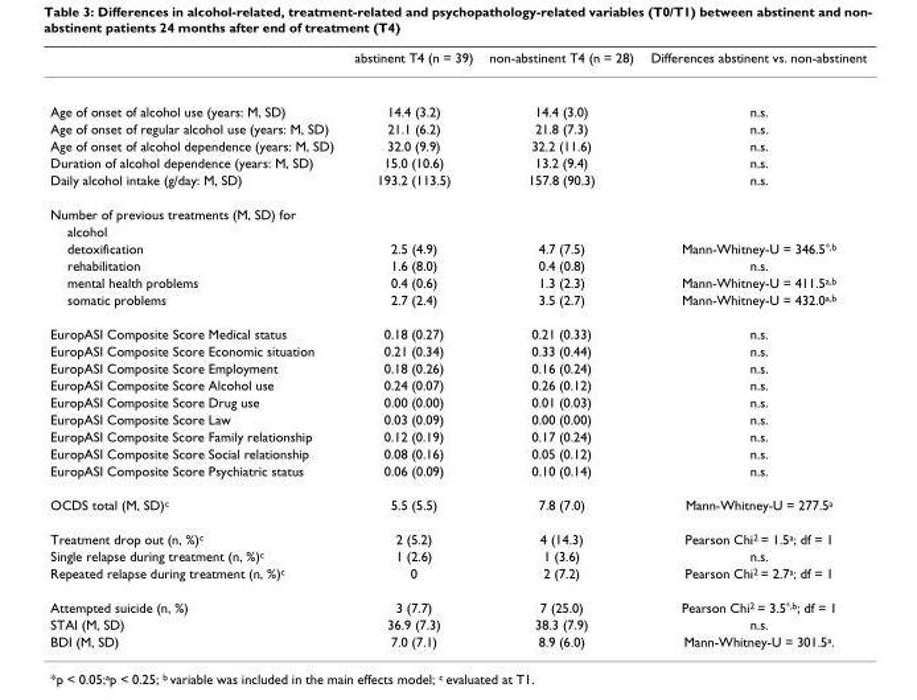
<table><thead><tr><td></td><td>abstinent T4 (n = 39)</td><td>non-abstinent T4 (n = 28)</td><td>Differences abstinent vs. non-abstinent</td></tr></thead><tbody><tr><td>Age of onset of alcohol use (years: M, SD)</td><td>14.4 (3.2)</td><td>14.4 (3.0)</td><td>n.s.</td></tr><tr><td>Age of onset of regular alcohol use (years: M, SD)</td><td>21.1 (6.2)</td><td>21.8 (7.3)</td><td>n.s.</td></tr><tr><td>Age of onset of alcohol dependence (years: M, SD)</td><td>32.0 (9.9)</td><td>32.2 (11.6)</td><td>n.s.</td></tr><tr><td>Duration of alcohol dependence (years: M, SD)</td><td>15.0 (10.6)</td><td>13.2 (9.4)</td><td>n.s.</td></tr><tr><td>Daily alcohol intake (g/day: M, SD)</td><td>193.2 (113.5)</td><td>157.8 (90.3)</td><td>n.s.</td></tr><tr><td colspan="4">Number of previous treatments (M, SD) for</td></tr><tr><td colspan="4">alcohol</td></tr><tr><td>detoxification</td><td>2.5 (4.9)</td><td>4.7 (7.5)</td><td>Mann-Whitney-U = 346.5<sup>*,b</sup></td></tr><tr><td>rehabilitation</td><td>1.6 (8.0)</td><td>0.4 (0.8)</td><td>n.s.</td></tr><tr><td>mental health problems</td><td>0.4 (0.6)</td><td>1.3 (2.3)</td><td>Mann-Whitney-U = 411.5<sup>a,b</sup></td></tr><tr><td>somatic problems</td><td>2.7 (2.4)</td><td>3.5 (2.7)</td><td>Mann-Whitney-U = 432.0<sup>a,b</sup></td></tr><tr><td>EuropASI Composite Score Medical status</td><td>0.18 (0.27)</td><td>0.21 (0.33)</td><td>n.s.</td></tr><tr><td>EuropASI Composite Score Economic situation</td><td>0.21 (0.34)</td><td>0.33 (0.44)</td><td>n.s.</td></tr><tr><td>EuropASI Composite Score Employment</td><td>0.18 (0.26)</td><td>0.16 (0.24)</td><td>n.s.</td></tr><tr><td>EuropASI Composite Score Alcohol use</td><td>0.24 (0.07)</td><td>0.26 (0.12)</td><td>n.s.</td></tr><tr><td>EuropASI Composite Score Drug use</td><td>0.00 (0.00)</td><td>0.01 (0.03)</td><td>n.s.</td></tr><tr><td>EuropASI Composite Score Law</td><td>0.03 (0.09)</td><td>0.00 (0.00)</td><td>n.s.</td></tr><tr><td>EuropASI Composite Score Family relationship</td><td>0.12 (0.19)</td><td>0.17 (0.24)</td><td>n.s.</td></tr><tr><td>EuropASI Composite Score Social relationship</td><td>0.08 (0.16)</td><td>0.05 (0.12)</td><td>n.s.</td></tr><tr><td>EuropASI Composite Score Psychiatric status</td><td>0.06 (0.09)</td><td>0.10 (0.14)</td><td>n.s.</td></tr><tr><td>OCDS total (M, SD)<sup>c</sup></td><td>5.5 (5.5)</td><td>7.8 (7.0)</td><td>Mann-Whitney-U = 277.5<sup>a</sup></td></tr><tr><td>Treatment drop out (n, %)<sup>c</sup></td><td>2 (5.2)</td><td>4 (14.3)</td><td>Pearson Chi<sup>2</sup> = 1.5<sup>a</sup>; df = 1</td></tr><tr><td>Single relapse during treatment (n, %)<sup>c</sup></td><td>1 (2.6)</td><td>1 (3.6)</td><td>n.s.</td></tr><tr><td>Repeated relapse during treatment (n, %)<sup>c</sup></td><td>0</td><td>2 (7.2)</td><td>Pearson Chi<sup>2</sup> = 2.7<sup>a</sup>; df = 1</td></tr><tr><td>Attempted suicide (n, %)</td><td>3 (7.7)</td><td>7 (25.0)</td><td>Pearson Chi<sup>2</sup> = 3.5<sup>*,b</sup>; df = 1</td></tr><tr><td>STAI (M, SD)</td><td>36.9 (7.3)</td><td>38.3 (7.9)</td><td>n.s.</td></tr><tr><td>BDI (M, SD)</td><td>7.0 (7.1)</td><td>8.9 (6.0)</td><td>Mann-Whitney-U = 301.5<sup>a</sup>.</td></tr></tbody></table>